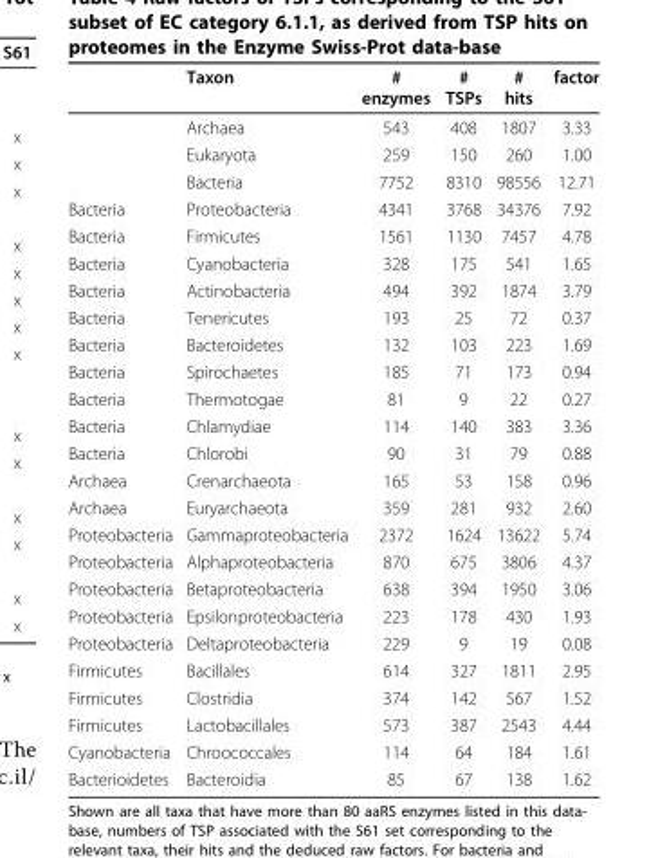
<table><thead><tr><td></td><td>Taxon</td><td># enzymes</td><td># TSPs</td><td># hits</td><td>factor</td></tr></thead><tbody><tr><td></td><td>Archaea</td><td>543</td><td>408</td><td>1807</td><td>3.33</td></tr><tr><td></td><td>Eukaryota</td><td>259</td><td>150</td><td>260</td><td>1.00</td></tr><tr><td></td><td>Bacteria</td><td>7752</td><td>8310</td><td>98556</td><td>12.71</td></tr><tr><td>Bacteria</td><td>Proteobacteria</td><td>4341</td><td>3768</td><td>34376</td><td>7.92</td></tr><tr><td>Bacteria</td><td>Firmicutes</td><td>1561</td><td>1130</td><td>7457</td><td>4.78</td></tr><tr><td>Bacteria</td><td>Cyanobacteria</td><td>328</td><td>175</td><td>541</td><td>1.65</td></tr><tr><td>Bacteria</td><td>Actinobacteria</td><td>494</td><td>392</td><td>1874</td><td>3.79</td></tr><tr><td>Bacteria</td><td>Tenericutes</td><td>193</td><td>25</td><td>72</td><td>0.37</td></tr><tr><td>Bacteria</td><td>Bacteroidetes</td><td>132</td><td>103</td><td>223</td><td>1.69</td></tr><tr><td>Bacteria</td><td>Spirochaetes</td><td>185</td><td>71</td><td>173</td><td>0.94</td></tr><tr><td>Bacteria</td><td>Thermotogae</td><td>81</td><td>9</td><td>22</td><td>0.27</td></tr><tr><td>Bacteria</td><td>Chlamydiae</td><td>114</td><td>140</td><td>383</td><td>3.36</td></tr><tr><td>Bacteria</td><td>Chlorobi</td><td>90</td><td>31</td><td>79</td><td>0.88</td></tr><tr><td>Archaea</td><td>Crenarchaeota</td><td>165</td><td>53</td><td>158</td><td>0.96</td></tr><tr><td>Archaea</td><td>Euryarchaeota</td><td>359</td><td>281</td><td>932</td><td>2.60</td></tr><tr><td>Proteobacteria</td><td>Gammaproteobacteria</td><td>2372</td><td>1624</td><td>13622</td><td>5.74</td></tr><tr><td>Proteobacteria</td><td>Alphaproteobacteria</td><td>870</td><td>675</td><td>3806</td><td>4.37</td></tr><tr><td>Proteobacteria</td><td>Betaproteobacteria</td><td>638</td><td>394</td><td>1950</td><td>3.06</td></tr><tr><td>Proteobacteria</td><td>Epsilonproteobacteria</td><td>223</td><td>178</td><td>430</td><td>1.93</td></tr><tr><td>Proteobacteria</td><td>Deltaproteobacteria</td><td>229</td><td>9</td><td>19</td><td>0.08</td></tr><tr><td>Firmicutes</td><td>Bacillales</td><td>614</td><td>327</td><td>1811</td><td>2.95</td></tr><tr><td>Firmicutes</td><td>Clostridia</td><td>374</td><td>142</td><td>567</td><td>1.52</td></tr><tr><td>Firmicutes</td><td>Lactobacillales</td><td>573</td><td>387</td><td>2543</td><td>4.44</td></tr><tr><td>Cyanobacteria</td><td>Chroococcales</td><td>114</td><td>64</td><td>184</td><td>1.61</td></tr><tr><td>Bacterioidetes</td><td>Bacteroidia</td><td>85</td><td>67</td><td>138</td><td>1.62</td></tr></tbody></table>